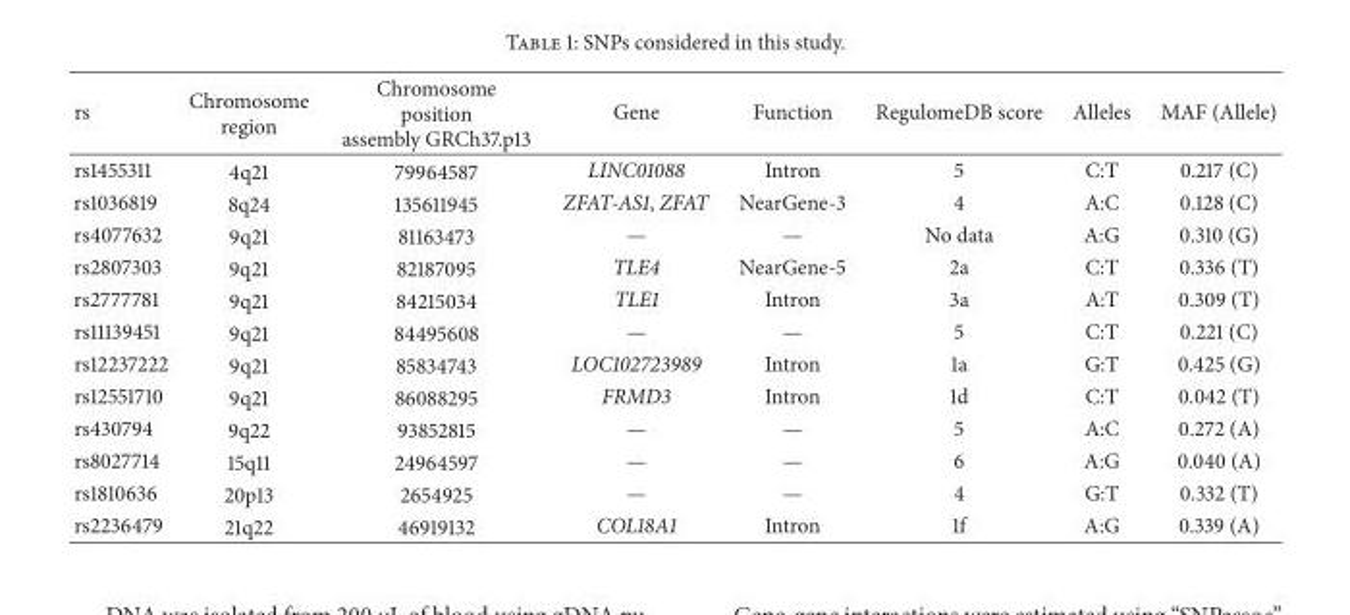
<table><thead><tr><td>rs</td><td>Chromosome region</td><td>Chromosome position assembly GRCh37.p13</td><td>Gene</td><td>Function</td><td>RegulomeDB score</td><td>Alleles</td><td>MAF (Allele)</td></tr></thead><tbody><tr><td>rs1455311</td><td>4q21</td><td>79964587</td><td>LINC01088</td><td>Intron</td><td>5</td><td>C:T</td><td>0.217 (C)</td></tr><tr><td>rs1036819</td><td>8q24</td><td>135611945</td><td>ZFAT-AS1, ZFAT</td><td>NearGene-3</td><td>4</td><td>A:C</td><td>0.128 (C)</td></tr><tr><td>rs4077632</td><td>9q21</td><td>81163473</td><td>—</td><td>—</td><td>No data</td><td>A:G</td><td>0.310 (G)</td></tr><tr><td>rs2807303</td><td>9q21</td><td>82187095</td><td>TLE4</td><td>NearGene-5</td><td>2a</td><td>C:T</td><td>0.336 (T)</td></tr><tr><td>rs2777781</td><td>9q21</td><td>84215034</td><td>TLE1</td><td>Intron</td><td>3a</td><td>A:T</td><td>0.309 (T)</td></tr><tr><td>rs11139451</td><td>9q21</td><td>84495608</td><td>—</td><td>—</td><td>5</td><td>C:T</td><td>0.221 (C)</td></tr><tr><td>rs12237222</td><td>9q21</td><td>85834743</td><td>LOC102723989</td><td>Intron</td><td>1a</td><td>G:T</td><td>0.425 (G)</td></tr><tr><td>rs12551710</td><td>9q21</td><td>86088295</td><td>FRMD3</td><td>Intron</td><td>1d</td><td>C:T</td><td>0.042 (T)</td></tr><tr><td>rs430794</td><td>9q22</td><td>93852815</td><td>—</td><td>—</td><td>5</td><td>A:C</td><td>0.272 (A)</td></tr><tr><td>rs8027714</td><td>15q11</td><td>24964597</td><td>—</td><td>—</td><td>6</td><td>A:G</td><td>0.040 (A)</td></tr><tr><td>rs1810636</td><td>20p13</td><td>2654925</td><td>—</td><td>—</td><td>4</td><td>G:T</td><td>0.332 (T)</td></tr><tr><td>rs2236479</td><td>21q22</td><td>46919132</td><td>COL18A1</td><td>Intron</td><td>1f</td><td>A:G</td><td>0.339 (A)</td></tr></tbody></table>